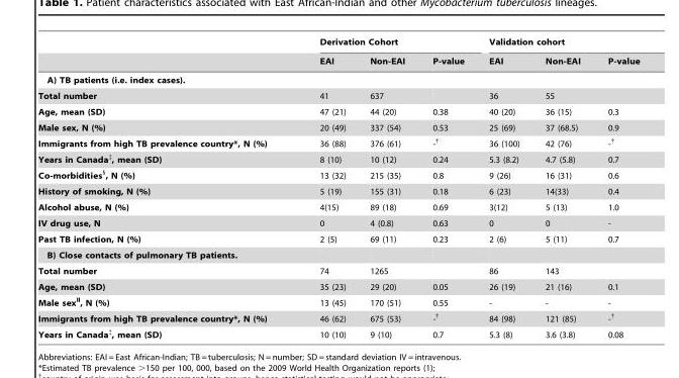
<table><thead><tr><td rowspan="2"></td><td colspan="3">Derivation Cohort</td><td colspan="3">Validation cohort</td></tr><tr><td>EAI</td><td>Non-EAI</td><td>P-value</td><td>EAI</td><td>Non-EAI</td><td>P-value</td></tr></thead><tbody><tr><td colspan="7">A) TB patients (i.e. index cases).</td></tr><tr><td>Total number</td><td>41</td><td>637</td><td></td><td>36</td><td>55</td><td></td></tr><tr><td>Age, mean (SD)</td><td>47 (21)</td><td>44 (20)</td><td>0.38</td><td>40 (20)</td><td>36 (15)</td><td>0.3</td></tr><tr><td>Male sex, N (%)</td><td>20 (49)</td><td>337 (54)</td><td>0.53</td><td>25 (69)</td><td>37 (68.5)</td><td>0.9</td></tr><tr><td>Immigrants from high TB prevalence country*, N (%)</td><td>36 (88)</td><td>376 (61)</td><td>-†</td><td>36 (100)</td><td>42 (76)</td><td>-†</td></tr><tr><td>Years in Canada‡, mean (SD)</td><td>8 (10)</td><td>10 (12)</td><td>0.24</td><td>5.3 (8.2)</td><td>4.7 (5.8)</td><td>0.7</td></tr><tr><td>Co-morbidities§, N (%)</td><td>13 (32)</td><td>215 (35)</td><td>0.8</td><td>9 (26)</td><td>16 (31)</td><td>0.6</td></tr><tr><td>History of smoking, N (%)</td><td>5 (19)</td><td>155 (31)</td><td>0.18</td><td>6 (23)</td><td>14(33)</td><td>0.4</td></tr><tr><td>Alcohol abuse, N (%)</td><td>4(15)</td><td>89 (18)</td><td>0.69</td><td>3(12)</td><td>5 (13)</td><td>1.0</td></tr><tr><td>IV drug use, N</td><td>0</td><td>4 (0.8)</td><td>0.63</td><td>0</td><td>0</td><td>-</td></tr><tr><td>Past TB infection, N (%)</td><td>2 (5)</td><td>69 (11)</td><td>0.23</td><td>2 (6)</td><td>5 (11)</td><td>0.7</td></tr><tr><td colspan="7">B) Close contacts of pulmonary TB patients.</td></tr><tr><td>Total number</td><td>74</td><td>1265</td><td></td><td>86</td><td>143</td><td></td></tr><tr><td>Age, mean (SD)</td><td>35 (23)</td><td>29 (20)</td><td>0.05</td><td>26 (19)</td><td>21 (16)</td><td>0.1</td></tr><tr><td>Male sexll, N (%)</td><td>13 (45)</td><td>170 (51)</td><td>0.55</td><td>-</td><td>-</td><td>-</td></tr><tr><td>Immigrants from high TB prevalence country*, N (%)</td><td>46 (62)</td><td>675 (53)</td><td>-†</td><td>84 (98)</td><td>121 (85)</td><td>-†</td></tr><tr><td>Years in Canada‡, mean (SD)</td><td>10 (10)</td><td>9 (10)</td><td>0.7</td><td>5.3 (8)</td><td>3.6 (3.8)</td><td>0.08</td></tr></tbody></table>